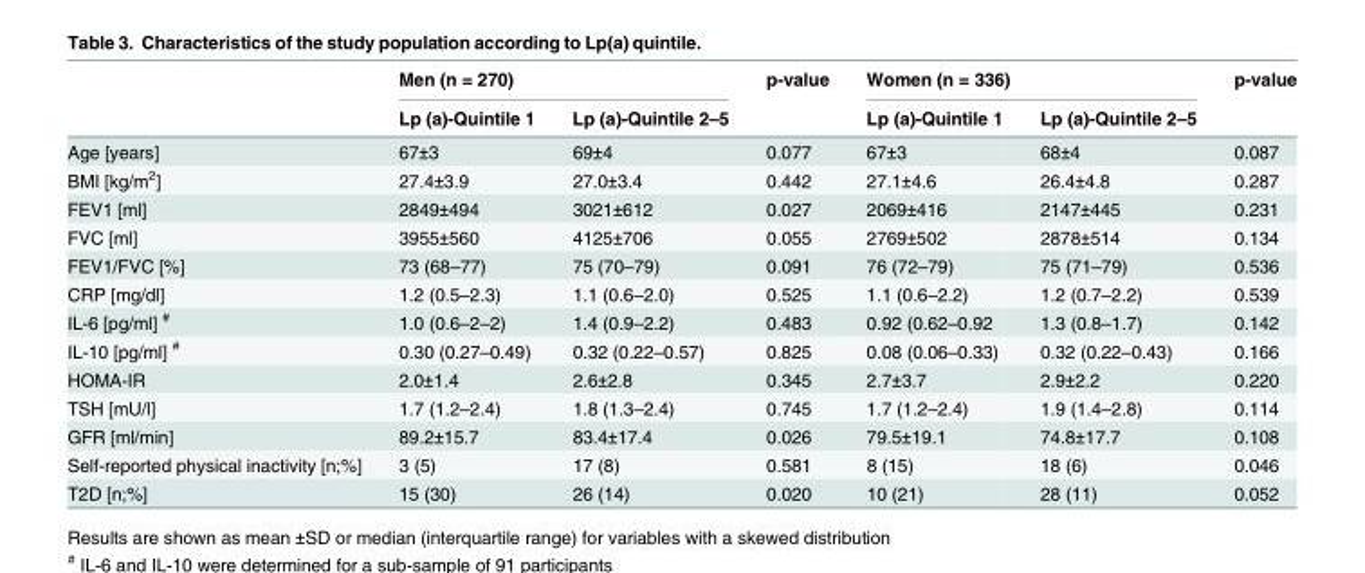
<table><thead><tr><td rowspan="2"></td><td colspan="2">Men (n = 270)</td><td rowspan="2">p-value</td><td colspan="2">Women (n = 336)</td><td rowspan="2">p-value</td></tr><tr><td>Lp (a)-Quintile 1</td><td>Lp (a)-Quintile 2–5</td><td>Lp (a)-Quintile 1</td><td>Lp (a)-Quintile 2–5</td></tr></thead><tbody><tr><td>Age [years]</td><td>67±3</td><td>69±4</td><td>0.077</td><td>67±3</td><td>68±4</td><td>0.087</td></tr><tr><td>BMI [kg/m<sup>2</sup>]</td><td>27.4±3.9</td><td>27.0±3.4</td><td>0.442</td><td>27.1±4.6</td><td>26.4±4.8</td><td>0.287</td></tr><tr><td>FEV1 [ml]</td><td>2849±494</td><td>3021±612</td><td>0.027</td><td>2069±416</td><td>2147±445</td><td>0.231</td></tr><tr><td>FVC [ml]</td><td>3955±560</td><td>4125±706</td><td>0.055</td><td>2769±502</td><td>2878±514</td><td>0.134</td></tr><tr><td>FEV1/FVC [%]</td><td>73 (68–77)</td><td>75 (70–79)</td><td>0.091</td><td>76 (72–79)</td><td>75 (71–79)</td><td>0.536</td></tr><tr><td>CRP [mg/dl]</td><td>1.2 (0.5–2.3)</td><td>1.1 (0.6–2.0)</td><td>0.525</td><td>1.1 (0.6–2.2)</td><td>1.2 (0.7–2.2)</td><td>0.539</td></tr><tr><td>IL-6 [pg/ml] <sup>#</sup></td><td>1.0 (0.6–2–2)</td><td>1.4 (0.9–2.2)</td><td>0.483</td><td>0.92 (0.62–0.92</td><td>1.3 (0.8–1.7)</td><td>0.142</td></tr><tr><td>IL-10 [pg/ml] <sup>#</sup></td><td>0.30 (0.27–0.49)</td><td>0.32 (0.22–0.57)</td><td>0.825</td><td>0.08 (0.06–0.33)</td><td>0.32 (0.22–0.43)</td><td>0.166</td></tr><tr><td>HOMA-IR</td><td>2.0±1.4</td><td>2.6±2.8</td><td>0.345</td><td>2.7±3.7</td><td>2.9±2.2</td><td>0.220</td></tr><tr><td>TSH [mU/l]</td><td>1.7 (1.2–2.4)</td><td>1.8 (1.3–2.4)</td><td>0.745</td><td>1.7 (1.2–2.4)</td><td>1.9 (1.4–2.8)</td><td>0.114</td></tr><tr><td>GFR [ml/min]</td><td>89.2±15.7</td><td>83.4±17.4</td><td>0.026</td><td>79.5±19.1</td><td>74.8±17.7</td><td>0.108</td></tr><tr><td>Self-reported physical inactivity [n;%]</td><td>3 (5)</td><td>17 (8)</td><td>0.581</td><td>8 (15)</td><td>18 (6)</td><td>0.046</td></tr><tr><td>T2D [n;%]</td><td>15 (30)</td><td>26 (14)</td><td>0.020</td><td>10 (21)</td><td>28 (11)</td><td>0.052</td></tr></tbody></table>